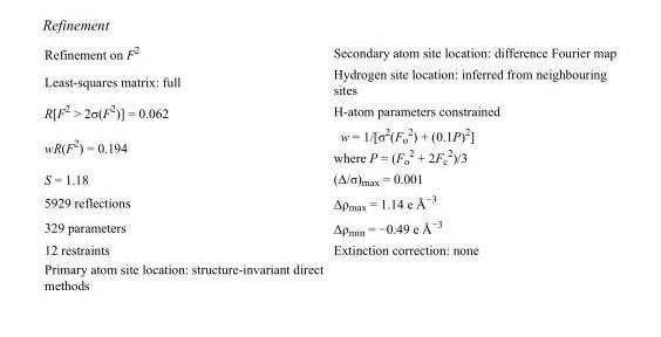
<table><tbody><tr><td>Refinement on F<sup>2</sup></td><td>Secondary atom site location: difference Fourier map</td></tr><tr><td>Least-squares matrix: full</td><td>Hydrogen site location: inferred from neighbouring sites</td></tr><tr><td>R[F<sup>2</sup> &gt; 2σ(F<sup>2</sup>)] = 0.062</td><td>H-atom parameters constrained</td></tr><tr><td>wR(F<sup>2</sup>) = 0.194</td><td>w = 1/[σ<sup>2</sup>(F<sub>o</sub> <sup>2</sup>) + (0.1P)<sup>2</sup>] where P = (F<sub>o</sub> <sup>2</sup> + 2F<sub>c</sub> <sup>2</sup>)/3</td></tr><tr><td>S = 1.18</td><td>(Δ/σ)<sub>max</sub> = 0.001</td></tr><tr><td>5929 reflections</td><td>Δρ<sub>max</sub> = 1.14 e Å<sup>−3</sup></td></tr><tr><td>329 parameters</td><td>Δρ<sub>min</sub> = −0.49 e Å<sup>−3</sup></td></tr><tr><td>12 restraints</td><td>Extinction correction: none</td></tr><tr><td>Primary atom site location: structure-invariant direct methods</td><td></td></tr></tbody></table>